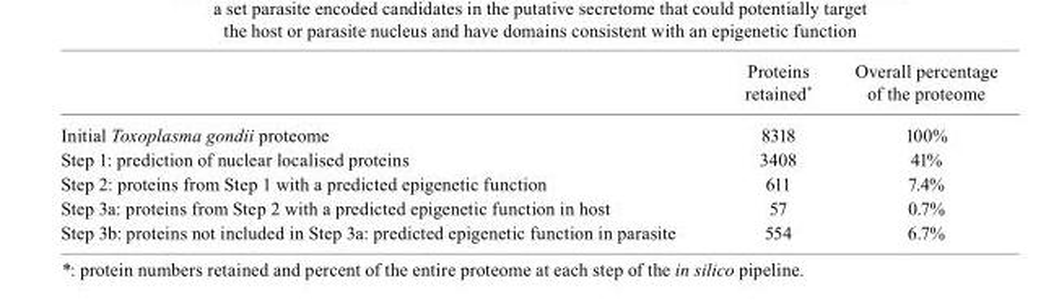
<table><thead><tr><td></td><td>Proteins retained*</td><td>Overall percentage of the proteome</td></tr></thead><tbody><tr><td>Initial Toxoplasma gondii proteome</td><td>8318</td><td>100%</td></tr><tr><td>Step 1: prediction of nuclear localised proteins</td><td>3408</td><td>41%</td></tr><tr><td>Step 2: proteins from Step 1 with a predicted epigenetic function</td><td>611</td><td>7.4%</td></tr><tr><td>Step 3a: proteins from Step 2 with a predicted epigenetic function in host</td><td>57</td><td>0.7%</td></tr><tr><td>Step 3b: proteins not included in Step 3a: predicted epigenetic function in parasite</td><td>554</td><td>6.7%</td></tr></tbody></table>